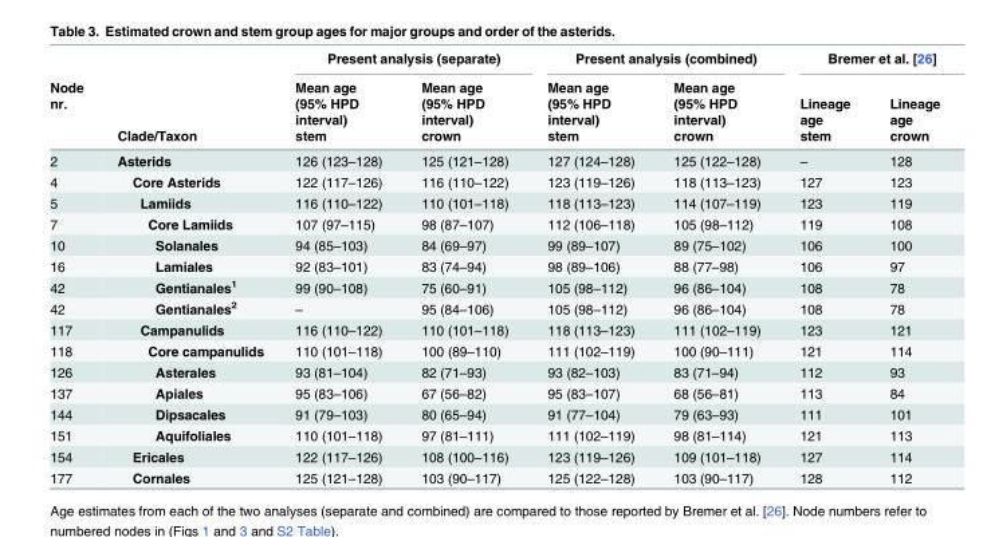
<table><thead><tr><td rowspan="4">Node nr.</td><td rowspan="4">Clade/Taxon</td><td colspan="2">Present analysis (separate)</td><td colspan="2">Present analysis (combined)</td><td colspan="2">Bremer et al. [26]</td></tr><tr><td rowspan="3">Mean age (95% HPD interval) stem</td><td rowspan="3">Mean age (95% HPD interval) crown</td><td rowspan="3">Mean age (95% HPD interval) stem</td><td rowspan="3">Mean age (95% HPD interval) crown</td><td rowspan="3">Lineage age stem</td><td rowspan="3">Lineage age crown</td></tr><tr></tr><tr></tr></thead><tbody><tr><td>2</td><td>Asterids</td><td>126 (123–128)</td><td>125 (121–128)</td><td>127 (124–128)</td><td>125 (122–128)</td><td>–</td><td>128</td></tr><tr><td>4</td><td>Core Asterids</td><td>122 (117–126)</td><td>116 (110–122)</td><td>123 (119–126)</td><td>118 (113–123)</td><td>127</td><td>123</td></tr><tr><td>5</td><td>Lamiids</td><td>116 (110–122)</td><td>110 (101–118)</td><td>118 (113–123)</td><td>114 (107–119)</td><td>123</td><td>119</td></tr><tr><td>7</td><td>Core Lamiids</td><td>107 (97–115)</td><td>98 (87–107)</td><td>112 (106–118)</td><td>105 (98–112)</td><td>119</td><td>108</td></tr><tr><td>10</td><td>Solanales</td><td>94 (85–103)</td><td>84 (69–97)</td><td>99 (89–107)</td><td>89 (75–102)</td><td>106</td><td>100</td></tr><tr><td>16</td><td>Lamiales</td><td>92 (83–101)</td><td>83 (74–94)</td><td>98 (89–106)</td><td>88 (77–98)</td><td>106</td><td>97</td></tr><tr><td>42</td><td>Gentianales<sup>1</sup></td><td>99 (90–108)</td><td>75 (60–91)</td><td>105 (98–112)</td><td>96 (86–104)</td><td>108</td><td>78</td></tr><tr><td>42</td><td>Gentianales<sup>2</sup></td><td>–</td><td>95 (84–106)</td><td>105 (98–112)</td><td>96 (86–104)</td><td>108</td><td>78</td></tr><tr><td>117</td><td>Campanulids</td><td>116 (110–122)</td><td>110 (101–118)</td><td>118 (113–123)</td><td>111 (102–119)</td><td>123</td><td>121</td></tr><tr><td>118</td><td>Core campanulids</td><td>110 (101–118)</td><td>100 (89–110)</td><td>111 (102–119)</td><td>100 (90–111)</td><td>121</td><td>114</td></tr><tr><td>126</td><td>Asterales</td><td>93 (81–104)</td><td>82 (71–93)</td><td>93 (82–103)</td><td>83 (71–94)</td><td>112</td><td>93</td></tr><tr><td>137</td><td>Apiales</td><td>95 (83–106)</td><td>67 (56–82)</td><td>95 (83–107)</td><td>68 (56–81)</td><td>113</td><td>84</td></tr><tr><td>144</td><td>Dipsacales</td><td>91 (79–103)</td><td>80 (65–94)</td><td>91 (77–104)</td><td>79 (63–93)</td><td>111</td><td>101</td></tr><tr><td>151</td><td>Aquifoliales</td><td>110 (101–118)</td><td>97 (81–111)</td><td>111 (102–119)</td><td>98 (81–114)</td><td>121</td><td>113</td></tr><tr><td>154</td><td>Ericales</td><td>122 (117–126)</td><td>108 (100–116)</td><td>123 (119–126)</td><td>109 (101–118)</td><td>127</td><td>114</td></tr><tr><td>177</td><td>Cornales</td><td>125 (121–128)</td><td>103 (90–117)</td><td>125 (122–128)</td><td>103 (90–117)</td><td>128</td><td>112</td></tr></tbody></table>